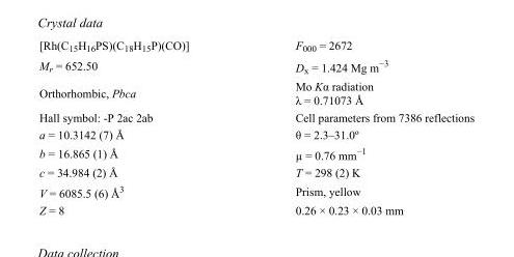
<table><tbody><tr><td>[Rh(C<sub>15</sub>H<sub>16</sub>PS)(C<sub>18</sub>H<sub>15</sub>P)(CO)]</td><td>F000 = 2672</td></tr><tr><td>M<sub>r</sub> = 652.50</td><td>D<sub>x</sub> = 1.424 Mg m<sup>−3</sup></td></tr><tr><td>Orthorhombic, Pbca</td><td>Mo Kα radiation λ = 0.71073 Å</td></tr><tr><td>Hall symbol: -P 2ac 2ab</td><td>Cell parameters from 7386 reflections</td></tr><tr><td>a = 10.3142 (7) Å</td><td>θ = 2.3–31.0º</td></tr><tr><td>b = 16.865 (1) Å</td><td>µ = 0.76 mm<sup>−1</sup></td></tr><tr><td>c = 34.984 (2) Å</td><td>T = 298 (2) K</td></tr><tr><td>V = 6085.5 (6) Å<sup>3</sup></td><td>Prism, yellow</td></tr><tr><td>Z = 8</td><td>0.26 × 0.23 × 0.03 mm</td></tr></tbody></table>